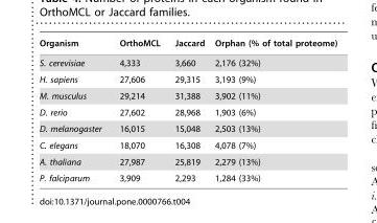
<table><thead><tr><td>Organism</td><td>OrthoMCL</td><td>Jaccard</td><td>Orphan (% of total proteome)</td></tr></thead><tbody><tr><td>S. cerevisiae</td><td>4,333</td><td>3,660</td><td>2,176 (32%)</td></tr><tr><td>H. sapiens</td><td>27,606</td><td>29,315</td><td>3,193 (9%)</td></tr><tr><td>M. musculus</td><td>29,214</td><td>31,388</td><td>3,902 (11%)</td></tr><tr><td>D. rerio</td><td>27,602</td><td>28,968</td><td>1,903 (6%)</td></tr><tr><td>D. melanogaster</td><td>16,015</td><td>15,048</td><td>2,503 (13%)</td></tr><tr><td>C. elegans</td><td>18,070</td><td>16,308</td><td>4,078 (7%)</td></tr><tr><td>A. thaliana</td><td>27,987</td><td>25,819</td><td>2,279 (13%)</td></tr><tr><td>P. falciparum</td><td>3,909</td><td>2,293</td><td>1,284 (33%)</td></tr></tbody></table>